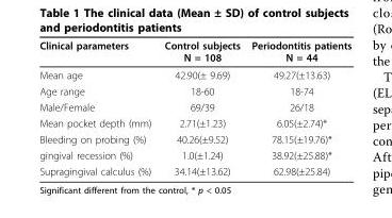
<table><thead><tr><td>Clinical parameters</td><td>Control subjects N = 108</td><td>Periodontitis patients N = 44</td></tr></thead><tbody><tr><td>Mean age</td><td>42.90(± 9.69)</td><td>49.27(±13.63)</td></tr><tr><td>Age range</td><td>18-60</td><td>18-74</td></tr><tr><td>Male/Female</td><td>69/39</td><td>26/18</td></tr><tr><td>Mean pocket depth (mm)</td><td>2.71(±1.23)</td><td>6.05(±2.74)*</td></tr><tr><td>Bleeding on probing (%)</td><td>40.26(±9.52)</td><td>78.15(±19.76)*</td></tr><tr><td>gingival recession (%)</td><td>1.0(±1.24)</td><td>38.92(±25.88)*</td></tr><tr><td>Supragingival calculus (%)</td><td>34.14(±13.62)</td><td>62.98(±25.84)</td></tr></tbody></table>